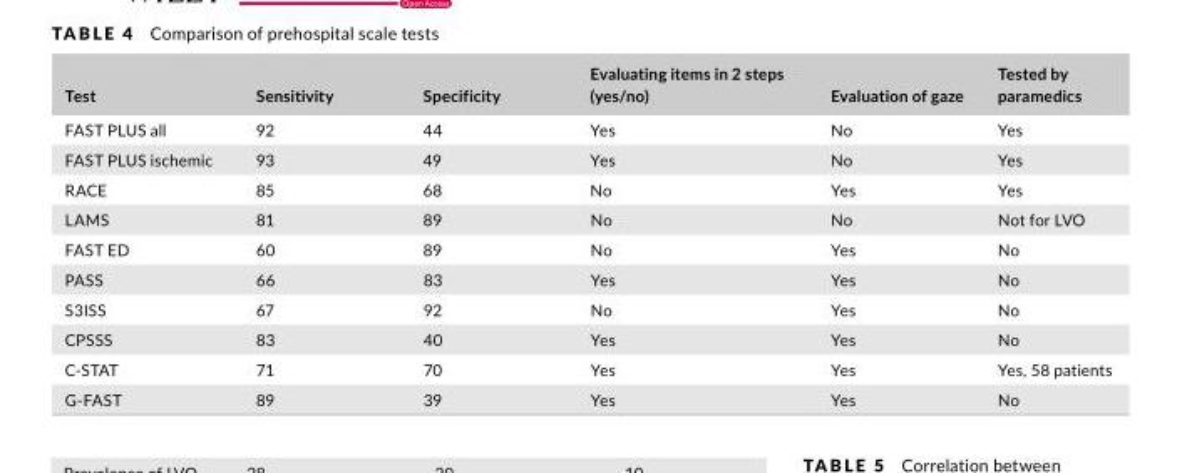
<table><thead><tr><td>Test</td><td>Sensitivity</td><td>Specificity</td><td>Evaluating items in 2 steps (yes/no)</td><td>Evaluation of gaze</td><td>Tested by paramedics</td></tr></thead><tbody><tr><td>FAST PLUS all</td><td>92</td><td>44</td><td>Yes</td><td>No</td><td>Yes</td></tr><tr><td>FAST PLUS ischemic</td><td>93</td><td>49</td><td>Yes</td><td>No</td><td>Yes</td></tr><tr><td>RACE</td><td>85</td><td>68</td><td>No</td><td>Yes</td><td>Yes</td></tr><tr><td>LAMS</td><td>81</td><td>89</td><td>No</td><td>No</td><td>Not for LVO</td></tr><tr><td>FAST ED</td><td>60</td><td>89</td><td>No</td><td>Yes</td><td>No</td></tr><tr><td>PASS</td><td>66</td><td>83</td><td>Yes</td><td>Yes</td><td>No</td></tr><tr><td>S3ISS</td><td>67</td><td>92</td><td>No</td><td>Yes</td><td>No</td></tr><tr><td>CPSSS</td><td>83</td><td>40</td><td>Yes</td><td>Yes</td><td>No</td></tr><tr><td>C- STAT</td><td>71</td><td>70</td><td>Yes</td><td>Yes</td><td>Yes, 58 patients</td></tr><tr><td>G- FAST</td><td>89</td><td>39</td><td>Yes</td><td>Yes</td><td>No</td></tr></tbody></table>